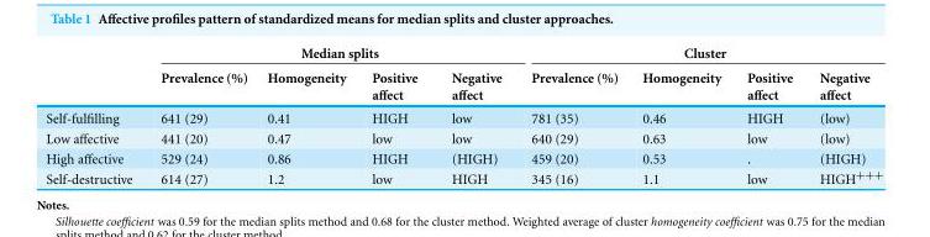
<table><thead><tr><td rowspan="2"></td><td colspan="4">Median splits</td><td colspan="4">Cluster</td></tr><tr><td>Prevalence (%)</td><td>Homogeneity</td><td>Positive affect</td><td>Negative affect</td><td>Prevalence (%)</td><td>Homogeneity</td><td>Positive affect</td><td>Negative affect</td></tr></thead><tbody><tr><td>Self-fulfilling</td><td>641 (29)</td><td>0.41</td><td>HIGH</td><td>low</td><td>781 (35)</td><td>0.46</td><td>HIGH</td><td>(low)</td></tr><tr><td>Low affective</td><td>441 (20)</td><td>0.47</td><td>low</td><td>low</td><td>640 (29)</td><td>0.63</td><td>low</td><td>(low)</td></tr><tr><td>High affective</td><td>529 (24)</td><td>0.86</td><td>HIGH</td><td>(HIGH)</td><td>459 (20)</td><td>0.53</td><td>.</td><td>(HIGH)</td></tr><tr><td>Self-destructive</td><td>614 (27)</td><td>1.2</td><td>low</td><td>HIGH</td><td>345 (16)</td><td>1.1</td><td>low</td><td>HIGH<sup>+++</sup></td></tr></tbody></table>